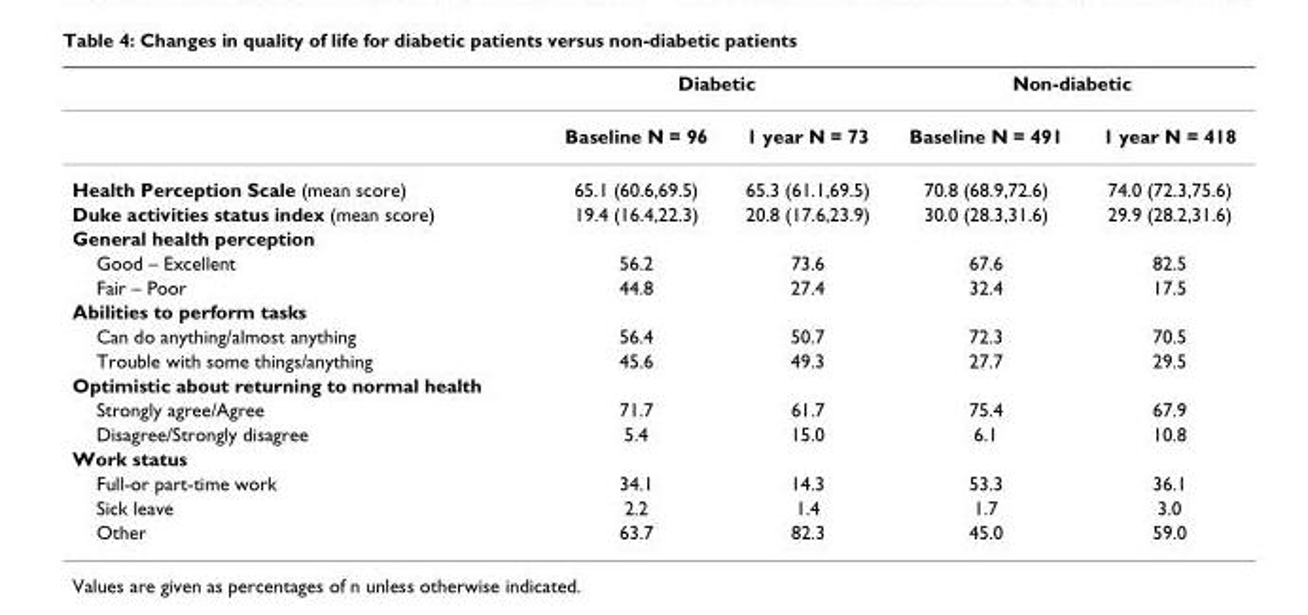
<table><thead><tr><td rowspan="2"></td><td colspan="2">Diabetic</td><td colspan="2">Non-diabetic</td></tr><tr><td>Baseline N = 96</td><td>1 year N = 73</td><td>Baseline N = 491</td><td>1 year N = 418</td></tr></thead><tbody><tr><td>Health Perception Scale (mean score)</td><td>65.1 (60.6,69.5)</td><td>65.3 (61.1,69.5)</td><td>70.8 (68.9,72.6)</td><td>74.0 (72.3,75.6)</td></tr><tr><td>Duke activities status index (mean score)</td><td>19.4 (16.4,22.3)</td><td>20.8 (17.6,23.9)</td><td>30.0 (28.3,31.6)</td><td>29.9 (28.2,31.6)</td></tr><tr><td colspan="5">General health perception</td></tr><tr><td>Good – Excellent</td><td>56.2</td><td>73.6</td><td>67.6</td><td>82.5</td></tr><tr><td>Fair – Poor</td><td>44.8</td><td>27.4</td><td>32.4</td><td>17.5</td></tr><tr><td colspan="5">Abilities to perform tasks</td></tr><tr><td>Can do anything/almost anything</td><td>56.4</td><td>50.7</td><td>72.3</td><td>70.5</td></tr><tr><td>Trouble with some things/anything</td><td>45.6</td><td>49.3</td><td>27.7</td><td>29.5</td></tr><tr><td colspan="5">Optimistic about returning to normal health</td></tr><tr><td>Strongly agree/Agree</td><td>71.7</td><td>61.7</td><td>75.4</td><td>67.9</td></tr><tr><td>Disagree/Strongly disagree</td><td>5.4</td><td>15.0</td><td>6.1</td><td>10.8</td></tr><tr><td colspan="5">Work status</td></tr><tr><td>Full-or part-time work</td><td>34.1</td><td>14.3</td><td>53.3</td><td>36.1</td></tr><tr><td>Sick leave</td><td>2.2</td><td>1.4</td><td>1.7</td><td>3.0</td></tr><tr><td>Other</td><td>63.7</td><td>82.3</td><td>45.0</td><td>59.0</td></tr></tbody></table>